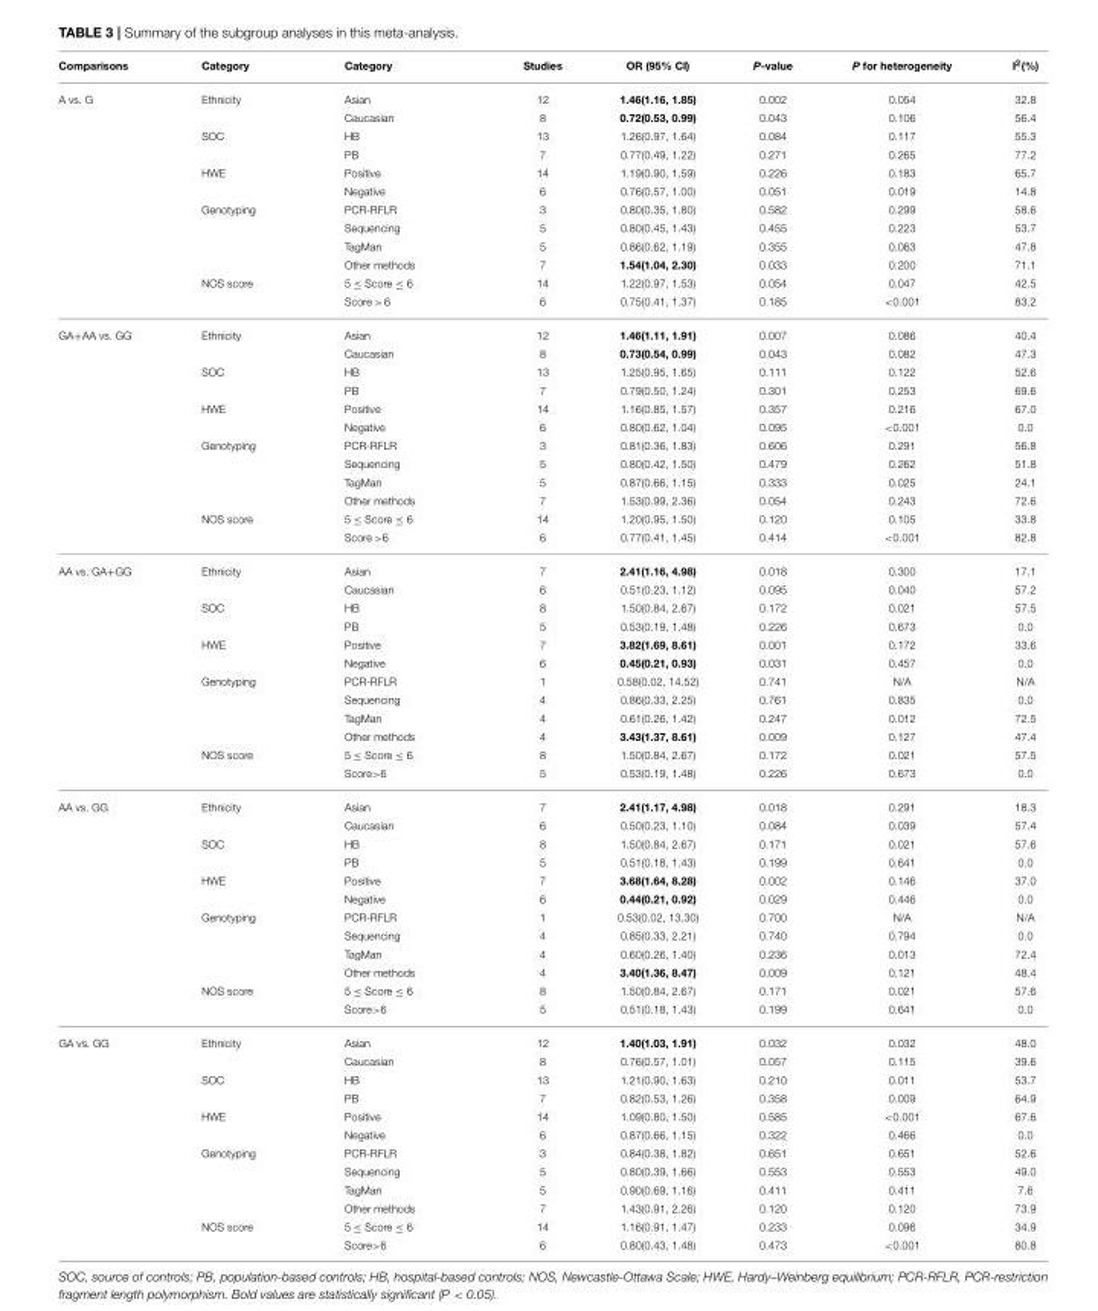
<table><thead><tr><td>Comparisons</td><td>Category</td><td>Category</td><td>Studies</td><td>OR (95% CI)</td><td>P-value</td><td>P for heterogeneity</td><td>I<sup>2</sup>(%)</td></tr></thead><tbody><tr><td rowspan="12">A vs. G</td><td>Ethnicity</td><td>Asian</td><td>12</td><td>1.46(1.16, 1.85)</td><td>0.002</td><td>0.054</td><td>32.8</td></tr><tr><td></td><td>Caucasian</td><td>8</td><td>0.72(0.53, 0.99)</td><td>0.043</td><td>0.106</td><td>56.4</td></tr><tr><td>SOC</td><td>HB</td><td>13</td><td>1.26(0.97, 1.64)</td><td>0.084</td><td>0.117</td><td>55.3</td></tr><tr><td></td><td>PB</td><td>7</td><td>0.77(0.49, 1.22)</td><td>0.271</td><td>0.265</td><td>77.2</td></tr><tr><td>HWE</td><td>Positive</td><td>14</td><td>1.19(0.90, 1.59)</td><td>0.226</td><td>0.183</td><td>65.7</td></tr><tr><td></td><td>Negative</td><td>6</td><td>0.76(0.57, 1.00)</td><td>0.051</td><td>0.019</td><td>14.8</td></tr><tr><td>Genotyping</td><td>PCR-RFLR</td><td>3</td><td>0.80(0.35, 1.80)</td><td>0.582</td><td>0.299</td><td>58.6</td></tr><tr><td></td><td>Sequencing</td><td>5</td><td>0.80(0.45, 1.43)</td><td>0.455</td><td>0.223</td><td>53.7</td></tr><tr><td></td><td>TagMan</td><td>5</td><td>0.86(0.62, 1.19)</td><td>0.355</td><td>0.063</td><td>47.8</td></tr><tr><td></td><td>Other methods</td><td>7</td><td>1.54(1.04, 2.30)</td><td>0.033</td><td>0.200</td><td>71.1</td></tr><tr><td>NOS score</td><td>5 ≤ Score ≤ 6</td><td>14</td><td>1.22(0.97, 1.53)</td><td>0.054</td><td>0.047</td><td>42.5</td></tr><tr><td></td><td>Score &gt; 6</td><td>6</td><td>0.75(0.41, 1.37)</td><td>0.185</td><td>&lt;0.001</td><td>83.2</td></tr><tr><td rowspan="12">GA+AA vs. GG</td><td>Ethnicity</td><td>Asian</td><td>12</td><td>1.46(1.11, 1.91)</td><td>0.007</td><td>0.086</td><td>40.4</td></tr><tr><td></td><td>Caucasian</td><td>8</td><td>0.73(0.54, 0.99)</td><td>0.043</td><td>0.082</td><td>47.3</td></tr><tr><td>SOC</td><td>HB</td><td>13</td><td>1.25(0.95, 1.65)</td><td>0.111</td><td>0.122</td><td>52.6</td></tr><tr><td></td><td>PB</td><td>7</td><td>0.79(0.50, 1.24)</td><td>0.301</td><td>0.253</td><td>69.6</td></tr><tr><td>HWE</td><td>Positive</td><td>14</td><td>1.16(0.85, 1.57)</td><td>0.357</td><td>0.216</td><td>67.0</td></tr><tr><td></td><td>Negative</td><td>6</td><td>0.80(0.62, 1.04)</td><td>0.095</td><td>&lt;0.001</td><td>0.0</td></tr><tr><td>Genotyping</td><td>PCR-RFLR</td><td>3</td><td>0.81(0.36, 1.83)</td><td>0.606</td><td>0.291</td><td>56.8</td></tr><tr><td></td><td>Sequencing</td><td>5</td><td>0.80(0.42, 1.50)</td><td>0.479</td><td>0.262</td><td>51.8</td></tr><tr><td></td><td>TagMan</td><td>5</td><td>0.87(0.66, 1.15)</td><td>0.333</td><td>0.025</td><td>24.1</td></tr><tr><td></td><td>Other methods</td><td>7</td><td>1.53(0.99, 2.36)</td><td>0.054</td><td>0.243</td><td>72.6</td></tr><tr><td>NOS score</td><td>5 ≤ Score ≤ 6</td><td>14</td><td>1.20(0.95, 1.50)</td><td>0.120</td><td>0.105</td><td>33.8</td></tr><tr><td></td><td>Score &gt;6</td><td>6</td><td>0.77(0.41, 1.45)</td><td>0.414</td><td>&lt;0.001</td><td>82.8</td></tr><tr><td rowspan="12">AA vs. GA+GG</td><td>Ethnicity</td><td>Asian</td><td>7</td><td>2.41(1.16, 4.98)</td><td>0.018</td><td>0.300</td><td>17.1</td></tr><tr><td></td><td>Caucasian</td><td>6</td><td>0.51(0.23, 1.12)</td><td>0.095</td><td>0.040</td><td>57.2</td></tr><tr><td>SOC</td><td>HB</td><td>8</td><td>1.50(0.84, 2.67)</td><td>0.172</td><td>0.021</td><td>57.5</td></tr><tr><td></td><td>PB</td><td>5</td><td>0.53(0.19, 1.48)</td><td>0.226</td><td>0.673</td><td>0.0</td></tr><tr><td>HWE</td><td>Positive</td><td>7</td><td>3.82(1.69, 8.61)</td><td>0.001</td><td>0.172</td><td>33.6</td></tr><tr><td></td><td>Negative</td><td>6</td><td>0.45(0.21, 0.93)</td><td>0.031</td><td>0.457</td><td>0.0</td></tr><tr><td>Genotyping</td><td>PCR-RFLR</td><td>1</td><td>0.58(0.02, 14.52)</td><td>0.741</td><td>N/A</td><td>N/A</td></tr><tr><td></td><td>Sequencing</td><td>4</td><td>0.86(0.33, 2.25)</td><td>0.761</td><td>0.835</td><td>0.0</td></tr><tr><td></td><td>TagMan</td><td>4</td><td>0.61(0.26, 1.42)</td><td>0.247</td><td>0.012</td><td>72.5</td></tr><tr><td></td><td>Other methods</td><td>4</td><td>3.43(1.37, 8.61)</td><td>0.009</td><td>0.127</td><td>47.4</td></tr><tr><td>NOS score</td><td>5 ≤ Score ≤ 6</td><td>8</td><td>1.50(0.84, 2.67)</td><td>0.172</td><td>0.021</td><td>57.5</td></tr><tr><td></td><td>Score&gt;6</td><td>5</td><td>0.53(0.19, 1.48)</td><td>0.226</td><td>0.673</td><td>0.0</td></tr><tr><td rowspan="12">AA vs. GG</td><td>Ethnicity</td><td>Asian</td><td>7</td><td>2.41(1.17, 4.98)</td><td>0.018</td><td>0.291</td><td>18.3</td></tr><tr><td></td><td>Caucasian</td><td>6</td><td>0.50(0.23, 1.10)</td><td>0.084</td><td>0.039</td><td>57.4</td></tr><tr><td>SOC</td><td>HB</td><td>8</td><td>1.50(0.84, 2.67)</td><td>0.171</td><td>0.021</td><td>57.6</td></tr><tr><td></td><td>PB</td><td>5</td><td>0.51(0.18, 1.43)</td><td>0.199</td><td>0.641</td><td>0.0</td></tr><tr><td>HWE</td><td>Positive</td><td>7</td><td>3.68(1.64, 8.28)</td><td>0.002</td><td>0.146</td><td>37.0</td></tr><tr><td></td><td>Negative</td><td>6</td><td>0.44(0.21, 0.92)</td><td>0.029</td><td>0.446</td><td>0.0</td></tr><tr><td>Genotyping</td><td>PCR-RFLR</td><td>1</td><td>0.53(0.02, 13.30)</td><td>0.700</td><td>N/A</td><td>N/A</td></tr><tr><td></td><td>Sequencing</td><td>4</td><td>0.85(0.33, 2.21)</td><td>0.740</td><td>0.794</td><td>0.0</td></tr><tr><td></td><td>TagMan</td><td>4</td><td>0.60(0.26, 1.40)</td><td>0.236</td><td>0.013</td><td>72.4</td></tr><tr><td></td><td>Other methods</td><td>4</td><td>3.40(1.36, 8.47)</td><td>0.009</td><td>0.121</td><td>48.4</td></tr><tr><td>NOS score</td><td>5 ≤ Score ≤ 6</td><td>8</td><td>1.50(0.84, 2.67)</td><td>0.171</td><td>0.021</td><td>57.6</td></tr><tr><td></td><td>Score&gt;6</td><td>5</td><td>0.51(0.18, 1.43)</td><td>0.199</td><td>0.641</td><td>0.0</td></tr><tr><td rowspan="12">GA vs. GG</td><td>Ethnicity</td><td>Asian</td><td>12</td><td>1.40(1.03, 1.91)</td><td>0.032</td><td>0.032</td><td>48.0</td></tr><tr><td></td><td>Caucasian</td><td>8</td><td>0.76(0.57, 1.01)</td><td>0.057</td><td>0.115</td><td>39.6</td></tr><tr><td>SOC</td><td>HB</td><td>13</td><td>1.21(0.90, 1.63)</td><td>0.210</td><td>0.011</td><td>53.7</td></tr><tr><td></td><td>PB</td><td>7</td><td>0.82(0.53, 1.26)</td><td>0.358</td><td>0.009</td><td>64.9</td></tr><tr><td>HWE</td><td>Positive</td><td>14</td><td>1.09(0.80, 1.50)</td><td>0.585</td><td>&lt;0.001</td><td>67.6</td></tr><tr><td></td><td>Negative</td><td>6</td><td>0.87(0.66, 1.15)</td><td>0.322</td><td>0.466</td><td>0.0</td></tr><tr><td>Genotyping</td><td>PCR-RFLR</td><td>3</td><td>0.84(0.38, 1.82)</td><td>0.651</td><td>0.651</td><td>52.6</td></tr><tr><td></td><td>Sequencing</td><td>5</td><td>0.80(0.39, 1.66)</td><td>0.553</td><td>0.553</td><td>49.0</td></tr><tr><td></td><td>TagMan</td><td>5</td><td>0.90(0.69, 1.16)</td><td>0.411</td><td>0.411</td><td>7.6</td></tr><tr><td></td><td>Other methods</td><td>7</td><td>1.43(0.91, 2.26)</td><td>0.120</td><td>0.120</td><td>73.9</td></tr><tr><td>NOS score</td><td>5 ≤ Score ≤ 6</td><td>14</td><td>1.16(0.91, 1.47)</td><td>0.233</td><td>0.096</td><td>34.9</td></tr><tr><td></td><td>Score&gt;6</td><td>6</td><td>0.80(0.43, 1.48)</td><td>0.473</td><td>&lt;0.001</td><td>80.8</td></tr></tbody></table>